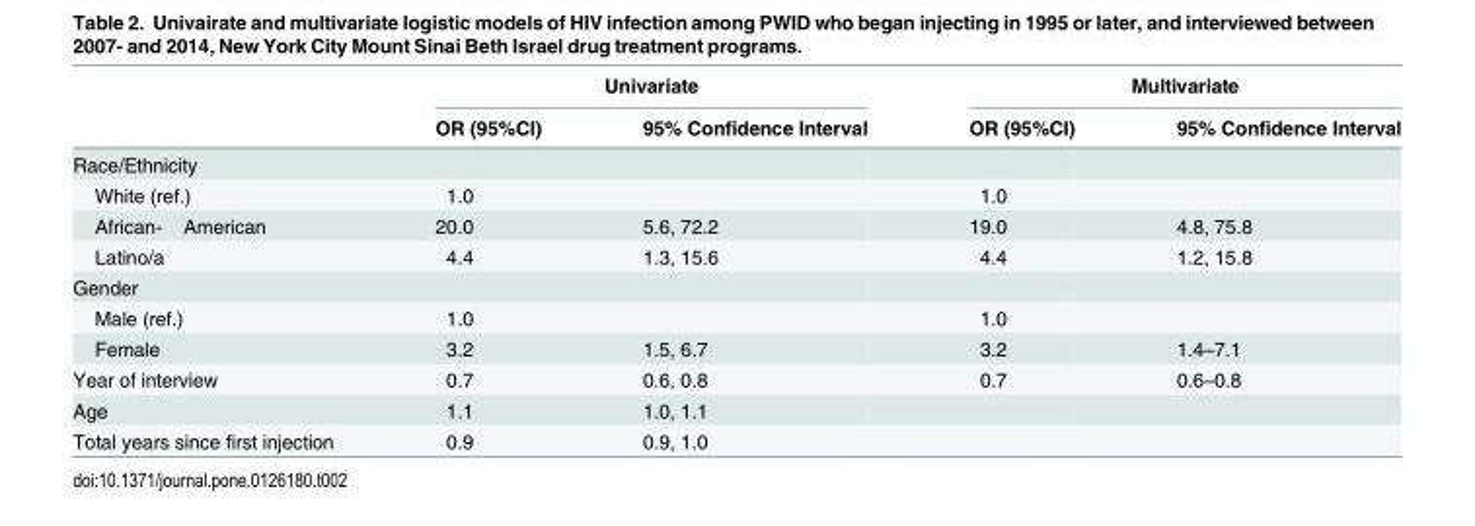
<table><thead><tr><td rowspan="2"></td><td colspan="2">Univariate</td><td colspan="2">Multivariate</td></tr><tr><td>OR (95%CI)</td><td>95% Confidence Interval</td><td>OR (95%CI)</td><td>95% Confidence Interval</td></tr></thead><tbody><tr><td colspan="5">Race/Ethnicity</td></tr><tr><td>White (ref.)</td><td>1.0</td><td></td><td>1.0</td><td></td></tr><tr><td>African- American</td><td>20.0</td><td>5.6, 72.2</td><td>19.0</td><td>4.8, 75.8</td></tr><tr><td>Latino/a</td><td>4.4</td><td>1.3, 15.6</td><td>4.4</td><td>1.2, 15.8</td></tr><tr><td colspan="5">Gender</td></tr><tr><td>Male (ref.)</td><td>1.0</td><td></td><td>1.0</td><td></td></tr><tr><td>Female</td><td>3.2</td><td>1.5, 6.7</td><td>3.2</td><td>1.4–7.1</td></tr><tr><td>Year of interview</td><td>0.7</td><td>0.6, 0.8</td><td>0.7</td><td>0.6–0.8</td></tr><tr><td>Age</td><td>1.1</td><td>1.0, 1.1</td><td></td><td></td></tr><tr><td>Total years since first injection</td><td>0.9</td><td>0.9, 1.0</td><td></td><td></td></tr></tbody></table>